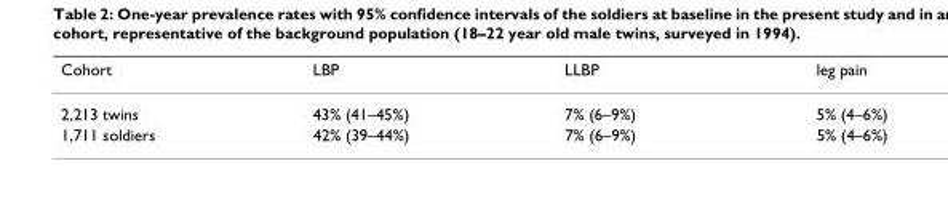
<table><thead><tr><td>Cohort</td><td>LBP</td><td>LLBP</td><td>leg pain</td></tr></thead><tbody><tr><td>2,213 twins</td><td>43% (41–45%)</td><td>7% (6–9%)</td><td>5% (4–6%)</td></tr><tr><td>1,711 soldiers</td><td>42% (39–44%)</td><td>7% (6–9%)</td><td>5% (4–6%)</td></tr></tbody></table>